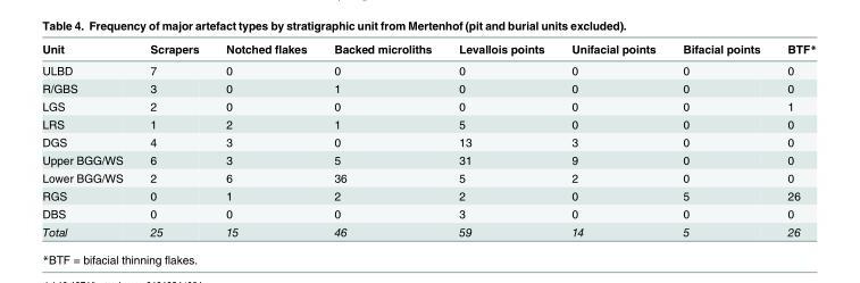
<table><thead><tr><td>Unit</td><td>Scrapers</td><td>Notched flakes</td><td>Backed microliths</td><td>Levallois points</td><td>Unifacial points</td><td>Bifacial points</td><td>BTF*</td></tr></thead><tbody><tr><td>ULBD</td><td>7</td><td>0</td><td>0</td><td>0</td><td>0</td><td>0</td><td>0</td></tr><tr><td>R/GBS</td><td>3</td><td>0</td><td>1</td><td>0</td><td>0</td><td>0</td><td>0</td></tr><tr><td>LGS</td><td>2</td><td>0</td><td>0</td><td>0</td><td>0</td><td>0</td><td>1</td></tr><tr><td>LRS</td><td>1</td><td>2</td><td>1</td><td>5</td><td>0</td><td>0</td><td>0</td></tr><tr><td>DGS</td><td>4</td><td>3</td><td>0</td><td>13</td><td>3</td><td>0</td><td>0</td></tr><tr><td>Upper BGG/WS</td><td>6</td><td>3</td><td>5</td><td>31</td><td>9</td><td>0</td><td>0</td></tr><tr><td>Lower BGG/WS</td><td>2</td><td>6</td><td>36</td><td>5</td><td>2</td><td>0</td><td>0</td></tr><tr><td>RGS</td><td>0</td><td>1</td><td>2</td><td>2</td><td>0</td><td>5</td><td>26</td></tr><tr><td>DBS</td><td>0</td><td>0</td><td>0</td><td>3</td><td>0</td><td>0</td><td>0</td></tr><tr><td>Total</td><td>25</td><td>15</td><td>46</td><td>59</td><td>14</td><td>5</td><td>26</td></tr></tbody></table>